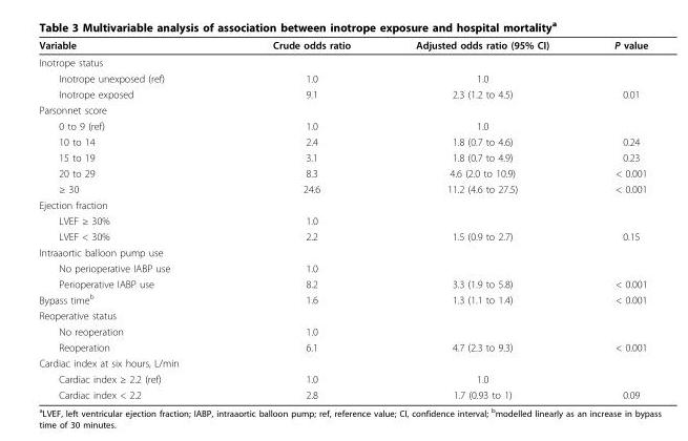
<table><thead><tr><td>Variable</td><td>Crude odds ratio</td><td>Adjusted odds ratio (95% CI)</td><td>P value</td></tr></thead><tbody><tr><td colspan="4">Inotrope status</td></tr><tr><td>Inotrope unexposed (ref)</td><td>1.0</td><td>1.0</td><td></td></tr><tr><td>Inotrope exposed</td><td>9.1</td><td>2.3 (1.2 to 4.5)</td><td>0.01</td></tr><tr><td colspan="4">Parsonnet score</td></tr><tr><td>0 to 9 (ref)</td><td>1.0</td><td>1.0</td><td></td></tr><tr><td>10 to 14</td><td>2.4</td><td>1.8 (0.7 to 4.6)</td><td>0.24</td></tr><tr><td>15 to 19</td><td>3.1</td><td>1.8 (0.7 to 4.9)</td><td>0.23</td></tr><tr><td>20 to 29</td><td>8.3</td><td>4.6 (2.0 to 10.9)</td><td>&lt; 0.001</td></tr><tr><td>≥ 30</td><td>24.6</td><td>11.2 (4.6 to 27.5)</td><td>&lt; 0.001</td></tr><tr><td colspan="4">Ejection fraction</td></tr><tr><td>LVEF ≥ 30%</td><td>1.0</td><td></td><td></td></tr><tr><td>LVEF &lt; 30%</td><td>2.2</td><td>1.5 (0.9 to 2.7)</td><td>0.15</td></tr><tr><td colspan="4">Intraaortic balloon pump use</td></tr><tr><td>No perioperative IABP use</td><td>1.0</td><td></td><td></td></tr><tr><td>Perioperative IABP use</td><td>8.2</td><td>3.3 (1.9 to 5.8)</td><td>&lt; 0.001</td></tr><tr><td>Bypass time<sup>b</sup></td><td>1.6</td><td>1.3 (1.1 to 1.4)</td><td>&lt; 0.001</td></tr><tr><td colspan="4">Reoperative status</td></tr><tr><td>No reoperation</td><td>1.0</td><td></td><td></td></tr><tr><td>Reoperation</td><td>6.1</td><td>4.7 (2.3 to 9.3)</td><td>&lt; 0.001</td></tr><tr><td colspan="4">Cardiac index at six hours, L/min</td></tr><tr><td>Cardiac index ≥ 2.2 (ref)</td><td>1.0</td><td>1.0</td><td></td></tr><tr><td>Cardiac index &lt; 2.2</td><td>2.8</td><td>1.7 (0.93 to 1)</td><td>0.09</td></tr></tbody></table>